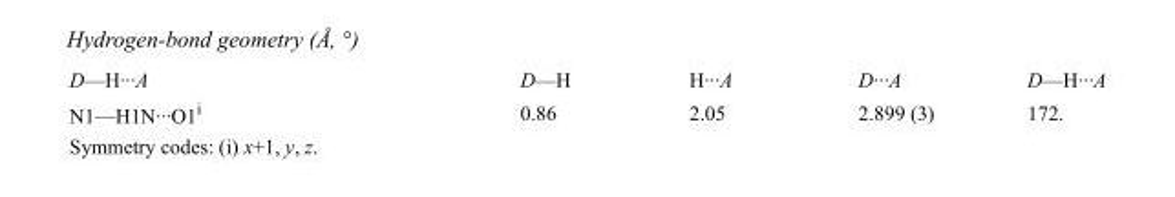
<table><tbody><tr><td>D—H···A</td><td>D—H</td><td>H···A</td><td>D···A</td><td>D—H···A</td></tr><tr><td>N1—H1N···O1<sup>i</sup></td><td>0.86</td><td>2.05</td><td>2.899 (3)</td><td>172.</td></tr></tbody></table>